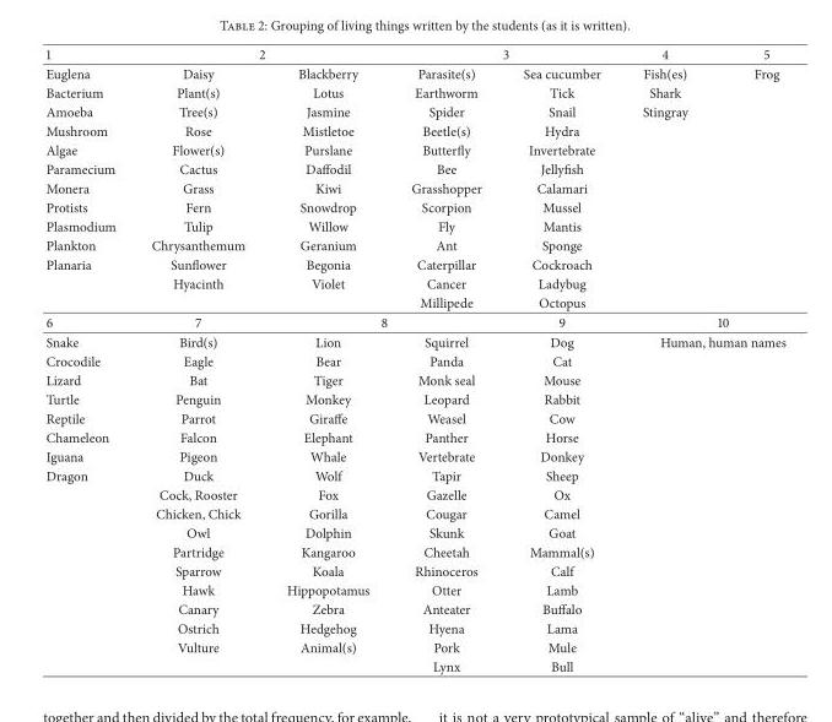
<table><thead><tr><td rowspan="2">1 Euglena</td><td colspan="2">2</td><td colspan="2">3</td><td rowspan="2">4 Fish(es)</td><td rowspan="2">5 Frog</td></tr><tr><td>Daisy</td><td>Blackberry</td><td>Parasite(s)</td><td>Sea cucumber</td></tr></thead><tbody><tr><td>Bacterium</td><td>Plant(s)</td><td>Lotus</td><td>Earthworm</td><td>Tick</td><td>Shark</td><td></td></tr><tr><td>Amoeba</td><td>Tree(s)</td><td>Jasmine</td><td>Spider</td><td>Snail</td><td>Stingray</td><td></td></tr><tr><td>Mushroom</td><td>Rose</td><td>Mistletoe</td><td>Beetle(s)</td><td>Hydra</td><td></td><td></td></tr><tr><td>Algae</td><td>Flower(s)</td><td>Purslane</td><td>Butterfly</td><td>Invertebrate</td><td></td><td></td></tr><tr><td>Paramecium</td><td>Cactus</td><td>Daffodil</td><td>Bee</td><td>Jellyfish</td><td></td><td></td></tr><tr><td>Monera</td><td>Grass</td><td>Kiwi</td><td>Grasshopper</td><td>Calamari</td><td></td><td></td></tr><tr><td>Protists</td><td>Fern</td><td>Snowdrop</td><td>Scorpion</td><td>Mussel</td><td></td><td></td></tr><tr><td>Plasmodium</td><td>Tulip</td><td>Willow</td><td>Fly</td><td>Mantis</td><td></td><td></td></tr><tr><td>Plankton</td><td>Chrysanthemum</td><td>Geranium</td><td>Ant</td><td>Sponge</td><td></td><td></td></tr><tr><td rowspan="3">Planaria</td><td>Sunflower</td><td>Begonia</td><td>Caterpillar</td><td>Cockroach</td><td></td><td></td></tr><tr><td>Hyacinth</td><td>Violet</td><td>Cancer</td><td>Ladybug</td><td></td><td></td></tr><tr><td></td><td></td><td>Millipede</td><td>Octopus</td><td></td><td></td></tr><tr><td>6</td><td>7</td><td colspan="2">8</td><td>9</td><td colspan="2">10</td></tr><tr><td>Snake</td><td>Bird(s)</td><td>Lion</td><td>Squirrel</td><td>Dog</td><td colspan="2">Human, human names</td></tr><tr><td>Crocodile</td><td>Eagle</td><td>Bear</td><td>Panda</td><td>Cat</td><td></td><td></td></tr><tr><td>Lizard</td><td>Bat</td><td>Tiger</td><td>Monk seal</td><td>Mouse</td><td></td><td></td></tr><tr><td>Turtle</td><td>Penguin</td><td>Monkey</td><td>Leopard</td><td>Rabbit</td><td></td><td></td></tr><tr><td>Reptile</td><td>Parrot</td><td>Giraffe</td><td>Weasel</td><td>Cow</td><td></td><td></td></tr><tr><td>Chameleon</td><td>Falcon</td><td>Elephant</td><td>Panther</td><td>Horse</td><td></td><td></td></tr><tr><td>Iguana</td><td>Pigeon</td><td>Whale</td><td>Vertebrate</td><td>Donkey</td><td></td><td></td></tr><tr><td rowspan="11">Dragon</td><td>Duck</td><td>Wolf</td><td>Tapir</td><td>Sheep</td><td></td><td></td></tr><tr><td>Cock, Rooster</td><td>Fox</td><td>Gazelle</td><td>Ox</td><td></td><td></td></tr><tr><td>Chicken, Chick</td><td>Gorilla</td><td>Cougar</td><td>Camel</td><td></td><td></td></tr><tr><td>Owl</td><td>Dolphin</td><td>Skunk</td><td>Goat</td><td></td><td></td></tr><tr><td>Partridge</td><td>Kangaroo</td><td>Cheetah</td><td>Mammal(s)</td><td></td><td></td></tr><tr><td>Sparrow</td><td>Koala</td><td>Rhinoceros</td><td>Calf</td><td></td><td></td></tr><tr><td>Hawk</td><td>Hippopotamus</td><td>Otter</td><td>Lamb</td><td></td><td></td></tr><tr><td>Canary</td><td>Zebra</td><td>Anteater</td><td>Buffalo</td><td></td><td></td></tr><tr><td>Ostrich</td><td>Hedgehog</td><td>Hyena</td><td>Lama</td><td></td><td></td></tr><tr><td>Vulture</td><td>Animal(s)</td><td>Pork</td><td>Mule</td><td></td><td></td></tr><tr><td></td><td></td><td>Lynx</td><td>Bull</td><td></td><td></td></tr></tbody></table>